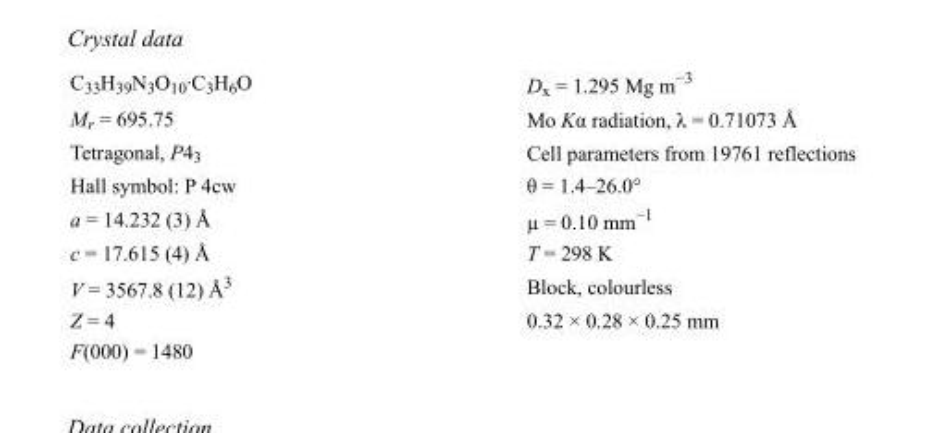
<table><tbody><tr><td>C<sub>33</sub>H<sub>39</sub>N<sub>3</sub>O<sub>10</sub>·C<sub>3</sub>H<sub>6</sub>O</td><td>D<sub>x</sub> = 1.295 Mg m<sup>−3</sup></td></tr><tr><td>M<sub>r</sub> = 695.75</td><td>Mo Kα radiation, λ = 0.71073 Å</td></tr><tr><td>Tetragonal, P4<sub>3</sub></td><td>Cell parameters from 19761 reflections</td></tr><tr><td>Hall symbol: P 4cw</td><td>θ = 1.4–26.0°</td></tr><tr><td>a = 14.232 (3) Å</td><td>µ = 0.10 mm<sup>−1</sup></td></tr><tr><td>c = 17.615 (4) Å</td><td>T = 298 K</td></tr><tr><td>V = 3567.8 (12) Å<sup>3</sup></td><td>Block, colourless</td></tr><tr><td>Z = 4</td><td>0.32 × 0.28 × 0.25 mm</td></tr><tr><td>F(000) = 1480</td><td></td></tr></tbody></table>